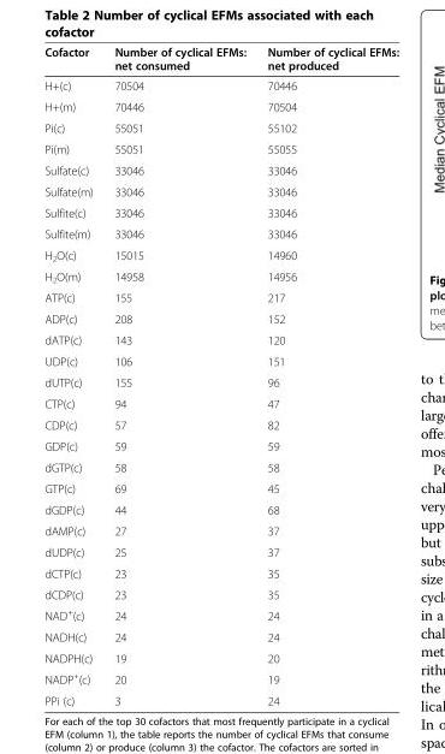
<table><thead><tr><td>Cofactor</td><td>Number of cyclical EFMs: net consumed</td><td>Number of cyclical EFMs: net produced</td></tr></thead><tbody><tr><td>H+(c)</td><td>70504</td><td>70446</td></tr><tr><td>H+(m)</td><td>70446</td><td>70504</td></tr><tr><td>Pi(c)</td><td>55051</td><td>55102</td></tr><tr><td>Pi(m)</td><td>55051</td><td>55055</td></tr><tr><td>Sulfate(c)</td><td>33046</td><td>33046</td></tr><tr><td>Sulfate(m)</td><td>33046</td><td>33046</td></tr><tr><td>Sulfite(c)</td><td>33046</td><td>33046</td></tr><tr><td>Sulfite(m)</td><td>33046</td><td>33046</td></tr><tr><td>H<sub>2</sub>O(c)</td><td>15015</td><td>14960</td></tr><tr><td>H<sub>2</sub>O(m)</td><td>14958</td><td>14956</td></tr><tr><td>ATP(c)</td><td>155</td><td>217</td></tr><tr><td>ADP(c)</td><td>208</td><td>152</td></tr><tr><td>dATP(c)</td><td>143</td><td>120</td></tr><tr><td>UDP(c)</td><td>106</td><td>151</td></tr><tr><td>dUTP(c)</td><td>155</td><td>96</td></tr><tr><td>CTP(c)</td><td>94</td><td>47</td></tr><tr><td>CDP(c)</td><td>57</td><td>82</td></tr><tr><td>GDP(c)</td><td>59</td><td>59</td></tr><tr><td>dGTP(c)</td><td>58</td><td>58</td></tr><tr><td>GTP(c)</td><td>69</td><td>45</td></tr><tr><td>dGDP(c)</td><td>44</td><td>68</td></tr><tr><td>dAMP(c)</td><td>27</td><td>37</td></tr><tr><td>dUDP(c)</td><td>25</td><td>37</td></tr><tr><td>dCTP(c)</td><td>23</td><td>35</td></tr><tr><td>dCDP(c)</td><td>23</td><td>35</td></tr><tr><td>NAD<sup>+</sup>(c)</td><td>24</td><td>24</td></tr><tr><td>NADH(c)</td><td>24</td><td>24</td></tr><tr><td>NADPH(c)</td><td>19</td><td>20</td></tr><tr><td>NADP<sup>+</sup>(c)</td><td>20</td><td>19</td></tr><tr><td>PPi (c)</td><td>3</td><td>24</td></tr></tbody></table>